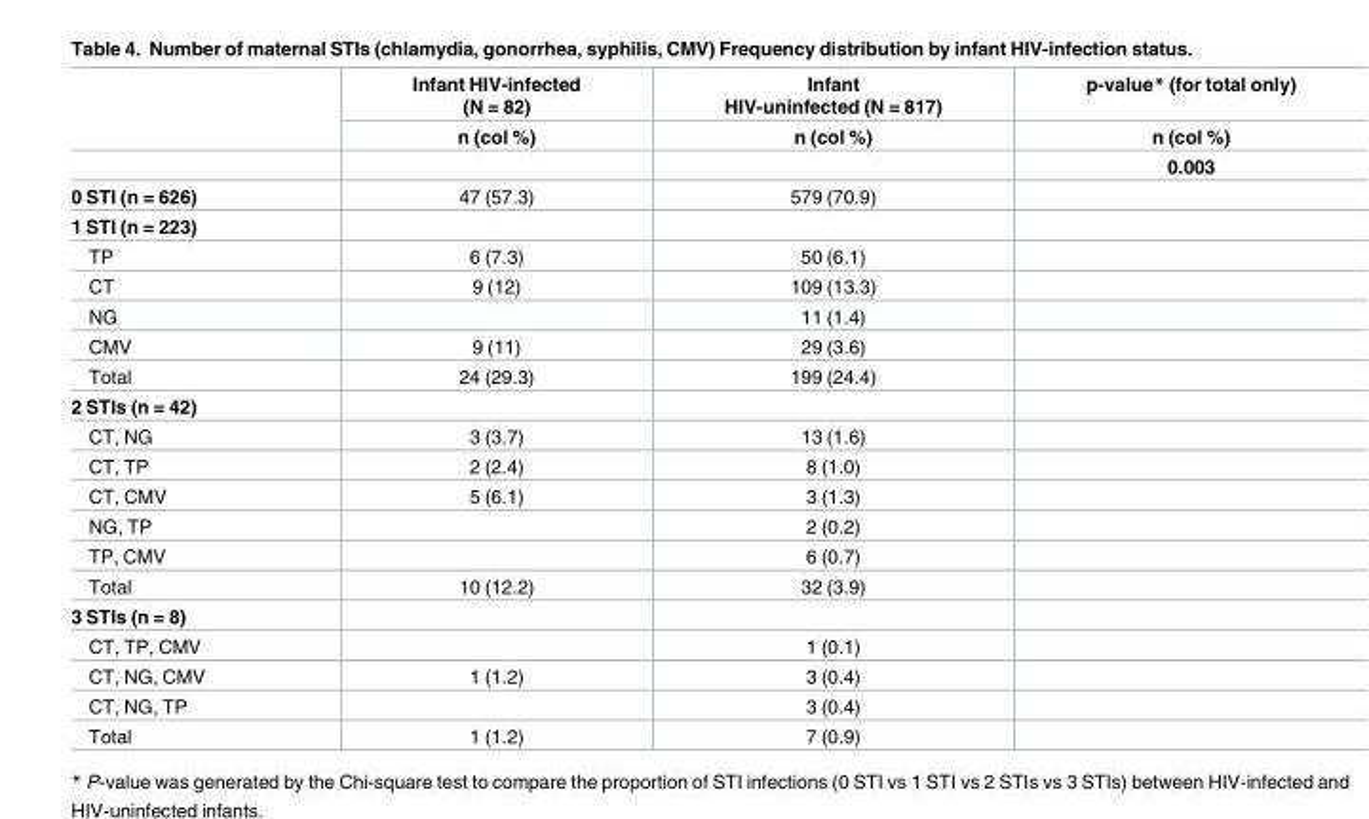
<table><thead><tr><td rowspan="2"></td><td rowspan="2">Infant HIV-infected (N = 82) n (col %)</td><td rowspan="2">Infant HIV-uninfected (N = 817) n (col %)</td><td rowspan="2">p-value* (for total only) n (col %)</td></tr><tr></tr></thead><tbody><tr><td></td><td></td><td></td><td>0.003</td></tr><tr><td>0 STI (n = 626)</td><td>47 (57.3)</td><td>579 (70.9)</td><td></td></tr><tr><td colspan="4">1 STI (n = 223)</td></tr><tr><td>TP</td><td>6 (7.3)</td><td>50 (6.1)</td><td></td></tr><tr><td>CT</td><td>9 (12)</td><td>109 (13.3)</td><td></td></tr><tr><td>NG</td><td></td><td>11 (1.4)</td><td></td></tr><tr><td>CMV</td><td>9 (11)</td><td>29 (3.6)</td><td></td></tr><tr><td>Total</td><td>24 (29.3)</td><td>199 (24.4)</td><td></td></tr><tr><td colspan="4">2 STIs (n = 42)</td></tr><tr><td>CT, NG</td><td>3 (3.7)</td><td>13 (1.6)</td><td></td></tr><tr><td>CT, TP</td><td>2 (2.4)</td><td>8 (1.0)</td><td></td></tr><tr><td>CT, CMV</td><td>5 (6.1)</td><td>3 (1.3)</td><td></td></tr><tr><td>NG, TP</td><td></td><td>2 (0.2)</td><td></td></tr><tr><td>TP, CMV</td><td></td><td>6 (0.7)</td><td></td></tr><tr><td>Total</td><td>10 (12.2)</td><td>32 (3.9)</td><td></td></tr><tr><td colspan="4">3 STIs (n = 8)</td></tr><tr><td>CT, TP, CMV</td><td></td><td>1 (0.1)</td><td></td></tr><tr><td>CT, NG, CMV</td><td>1 (1.2)</td><td>3 (0.4)</td><td></td></tr><tr><td>CT, NG, TP</td><td></td><td>3 (0.4)</td><td></td></tr><tr><td>Total</td><td>1 (1.2)</td><td>7 (0.9)</td><td></td></tr></tbody></table>